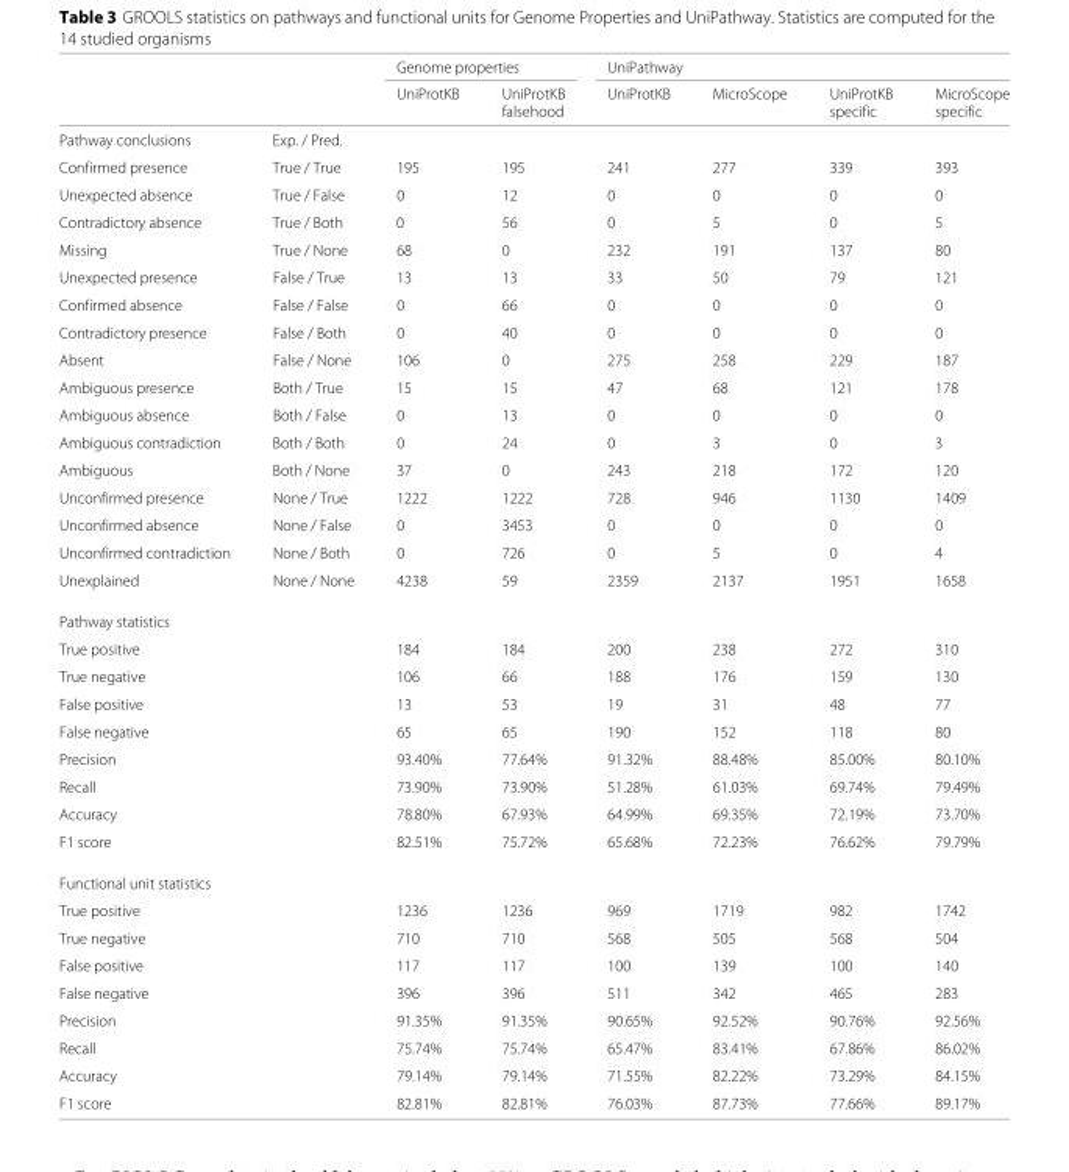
<table><thead><tr><td rowspan="3"></td><td rowspan="3"></td><td colspan="2">Genome properties</td><td colspan="4">UniPathway</td></tr><tr><td rowspan="2">UniProtKB</td><td rowspan="2">UniProtKB falsehood</td><td rowspan="2">UniProtKB</td><td rowspan="2">MicroScope</td><td rowspan="2">UniProtKB specific</td><td rowspan="2">MicroScope specific</td></tr><tr></tr></thead><tbody><tr><td>Pathway conclusions</td><td>Exp. / Pred.</td><td colspan="6"></td></tr><tr><td>Confirmed presence</td><td>True / True</td><td>195</td><td>195</td><td>241</td><td>277</td><td>339</td><td>393</td></tr><tr><td>Unexpected absence</td><td>True / False</td><td>0</td><td>12</td><td>0</td><td>0</td><td>0</td><td>0</td></tr><tr><td>Contradictory absence</td><td>True / Both</td><td>0</td><td>56</td><td>0</td><td>5</td><td>0</td><td>5</td></tr><tr><td>Missing</td><td>True / None</td><td>68</td><td>0</td><td>232</td><td>191</td><td>137</td><td>80</td></tr><tr><td>Unexpected presence</td><td>False / True</td><td>13</td><td>13</td><td>33</td><td>50</td><td>79</td><td>121</td></tr><tr><td>Confirmed absence</td><td>False / False</td><td>0</td><td>66</td><td>0</td><td>0</td><td>0</td><td>0</td></tr><tr><td>Contradictory presence</td><td>False / Both</td><td>0</td><td>40</td><td>0</td><td>0</td><td>0</td><td>0</td></tr><tr><td>Absent</td><td>False / None</td><td>106</td><td>0</td><td>275</td><td>258</td><td>229</td><td>187</td></tr><tr><td>Ambiguous presence</td><td>Both / True</td><td>15</td><td>15</td><td>47</td><td>68</td><td>121</td><td>178</td></tr><tr><td>Ambiguous absence</td><td>Both / False</td><td>0</td><td>13</td><td>0</td><td>0</td><td>0</td><td>0</td></tr><tr><td>Ambiguous contradiction</td><td>Both / Both</td><td>0</td><td>24</td><td>0</td><td>3</td><td>0</td><td>3</td></tr><tr><td>Ambiguous</td><td>Both / None</td><td>37</td><td>0</td><td>243</td><td>218</td><td>172</td><td>120</td></tr><tr><td>Unconfirmed presence</td><td>None / True</td><td>1222</td><td>1222</td><td>728</td><td>946</td><td>1130</td><td>1409</td></tr><tr><td>Unconfirmed absence</td><td>None / False</td><td>0</td><td>3453</td><td>0</td><td>0</td><td>0</td><td>0</td></tr><tr><td>Unconfirmed contradiction</td><td>None / Both</td><td>0</td><td>726</td><td>0</td><td>5</td><td>0</td><td>4</td></tr><tr><td>Unexplained</td><td>None / None</td><td>4238</td><td>59</td><td>2359</td><td>2137</td><td>1951</td><td>1658</td></tr><tr><td colspan="8">Pathway statistics</td></tr><tr><td>True positive</td><td></td><td>184</td><td>184</td><td>200</td><td>238</td><td>272</td><td>310</td></tr><tr><td>True negative</td><td></td><td>106</td><td>66</td><td>188</td><td>176</td><td>159</td><td>130</td></tr><tr><td>False positive</td><td></td><td>13</td><td>53</td><td>19</td><td>31</td><td>48</td><td>77</td></tr><tr><td>False negative</td><td></td><td>65</td><td>65</td><td>190</td><td>152</td><td>118</td><td>80</td></tr><tr><td>Precision</td><td></td><td>93.40%</td><td>77.64%</td><td>91.32%</td><td>88.48%</td><td>85.00%</td><td>80.10%</td></tr><tr><td>Recall</td><td></td><td>73.90%</td><td>73.90%</td><td>51.28%</td><td>61.03%</td><td>69.74%</td><td>79.49%</td></tr><tr><td>Accuracy</td><td></td><td>78.80%</td><td>67.93%</td><td>64.99%</td><td>69.35%</td><td>72.19%</td><td>73.70%</td></tr><tr><td>F1 score</td><td></td><td>82.51%</td><td>75.72%</td><td>65.68%</td><td>72.23%</td><td>76.62%</td><td>79.79%</td></tr><tr><td colspan="8">Functional unit statistics</td></tr><tr><td>True positive</td><td></td><td>1236</td><td>1236</td><td>969</td><td>1719</td><td>982</td><td>1742</td></tr><tr><td>True negative</td><td></td><td>710</td><td>710</td><td>568</td><td>505</td><td>568</td><td>504</td></tr><tr><td>False positive</td><td></td><td>117</td><td>117</td><td>100</td><td>139</td><td>100</td><td>140</td></tr><tr><td>False negative</td><td></td><td>396</td><td>396</td><td>511</td><td>342</td><td>465</td><td>283</td></tr><tr><td>Precision</td><td></td><td>91.35%</td><td>91.35%</td><td>90.65%</td><td>92.52%</td><td>90.76%</td><td>92.56%</td></tr><tr><td>Recall</td><td></td><td>75.74%</td><td>75.74%</td><td>65.47%</td><td>83.41%</td><td>67.86%</td><td>86.02%</td></tr><tr><td>Accuracy</td><td></td><td>79.14%</td><td>79.14%</td><td>71.55%</td><td>82.22%</td><td>73.29%</td><td>84.15%</td></tr><tr><td>F1 score</td><td></td><td>82.81%</td><td>82.81%</td><td>76.03%</td><td>87.73%</td><td>77.66%</td><td>89.17%</td></tr></tbody></table>